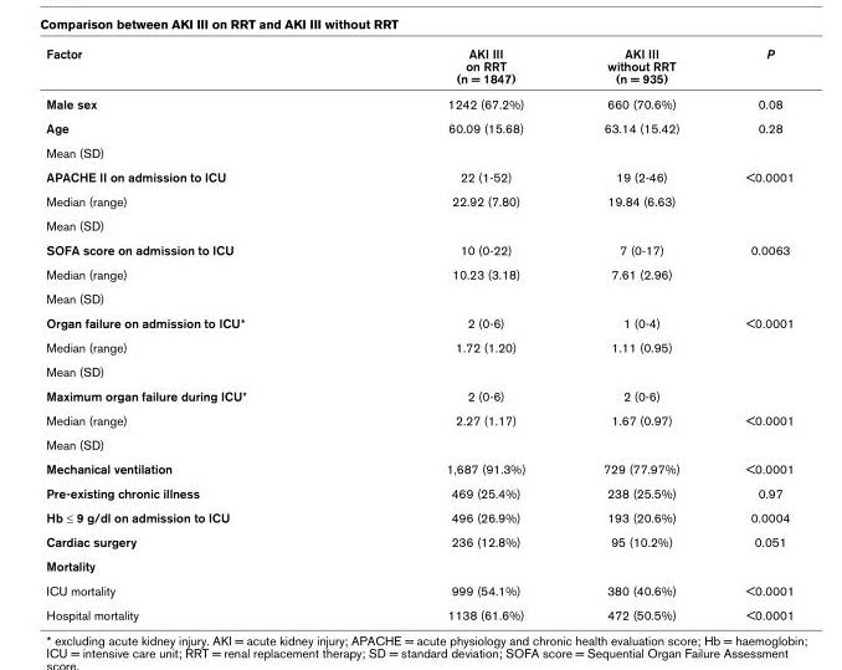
<table><thead><tr><td>Factor</td><td>AKI III on RRT (n = 1847)</td><td>AKI III without RRT (n = 935)</td><td>P</td></tr></thead><tbody><tr><td>Male sex</td><td>1242 (67.2%)</td><td>660 (70.6%)</td><td>0.08</td></tr><tr><td>Age</td><td>60.09 (15.68)</td><td>63.14 (15.42)</td><td>0.28</td></tr><tr><td colspan="4">Mean (SD)</td></tr><tr><td>APACHE II on admission to ICU</td><td>22 (1-52)</td><td>19 (2-46)</td><td>&lt;0.0001</td></tr><tr><td>Median (range)</td><td>22.92 (7.80)</td><td>19.84 (6.63)</td><td></td></tr><tr><td colspan="4">Mean (SD)</td></tr><tr><td>SOFA score on admission to ICU</td><td>10 (0-22)</td><td>7 (0-17)</td><td>0.0063</td></tr><tr><td>Median (range)</td><td>10.23 (3.18)</td><td>7.61 (2.96)</td><td></td></tr><tr><td colspan="4">Mean (SD)</td></tr><tr><td>Organ failure on admission to ICU*</td><td>2 (0-6)</td><td>1 (0-4)</td><td>&lt;0.0001</td></tr><tr><td>Median (range)</td><td>1.72 (1.20)</td><td>1.11 (0.95)</td><td></td></tr><tr><td colspan="4">Mean (SD)</td></tr><tr><td>Maximum organ failure during ICU*</td><td>2 (0-6)</td><td>2 (0-6)</td><td></td></tr><tr><td>Median (range)</td><td>2.27 (1.17)</td><td>1.67 (0.97)</td><td>&lt;0.0001</td></tr><tr><td colspan="4">Mean (SD)</td></tr><tr><td>Mechanical ventilation</td><td>1,687 (91.3%)</td><td>729 (77.97%)</td><td>&lt;0.0001</td></tr><tr><td>Pre-existing chronic illness</td><td>469 (25.4%)</td><td>238 (25.5%)</td><td>0.97</td></tr><tr><td>Hb ≤ 9 g/dl on admission to ICU</td><td>496 (26.9%)</td><td>193 (20.6%)</td><td>0.0004</td></tr><tr><td>Cardiac surgery</td><td>236 (12.8%)</td><td>95 (10.2%)</td><td>0.051</td></tr><tr><td colspan="4">Mortality</td></tr><tr><td>ICU mortality</td><td>999 (54.1%)</td><td>380 (40.6%)</td><td>&lt;0.0001</td></tr><tr><td>Hospital mortality</td><td>1138 (61.6%)</td><td>472 (50.5%)</td><td>&lt;0.0001</td></tr></tbody></table>